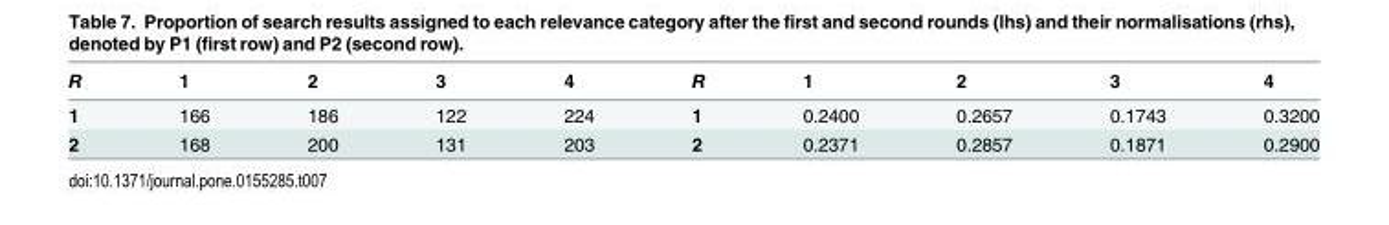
<table><thead><tr><td>R</td><td>1</td><td>2</td><td>3</td><td>4</td><td>R</td><td>1</td><td>2</td><td>3</td><td>4</td></tr></thead><tbody><tr><td>1</td><td>166</td><td>186</td><td>122</td><td>224</td><td>1</td><td>0.2400</td><td>0.2657</td><td>0.1743</td><td>0.3200</td></tr><tr><td>2</td><td>168</td><td>200</td><td>131</td><td>203</td><td>2</td><td>0.2371</td><td>0.2857</td><td>0.1871</td><td>0.2900</td></tr></tbody></table>